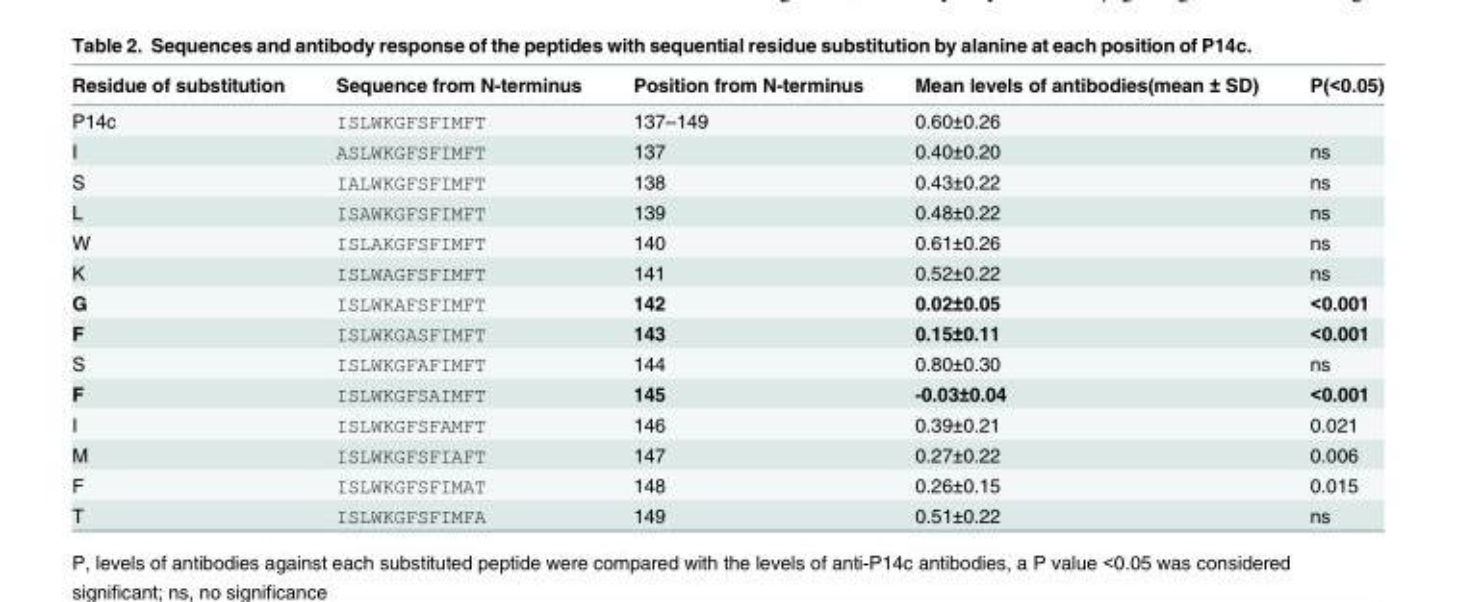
<table><thead><tr><td>Residue of substitution</td><td>Sequence from N-terminus</td><td>Position from N-terminus</td><td>Mean levels of antibodies(mean ± SD)</td><td>P(&lt;0.05)</td></tr></thead><tbody><tr><td>P14c</td><td>ISLWKGFSFIMFT</td><td>137–149</td><td>0.60±0.26</td><td></td></tr><tr><td>I</td><td>ASLWKGFSFIMFT</td><td>137</td><td>0.40±0.20</td><td>ns</td></tr><tr><td>S</td><td>IALWKGFSFIMFT</td><td>138</td><td>0.43±0.22</td><td>ns</td></tr><tr><td>L</td><td>ISAWKGFSFIMFT</td><td>139</td><td>0.48±0.22</td><td>ns</td></tr><tr><td>W</td><td>ISLAKGFSFIMFT</td><td>140</td><td>0.61±0.26</td><td>ns</td></tr><tr><td>K</td><td>ISLWAGFSFIMFT</td><td>141</td><td>0.52±0.22</td><td>ns</td></tr><tr><td>G</td><td>ISLWKAFSFIMFT</td><td>142</td><td>0.02±0.05</td><td>&lt;0.001</td></tr><tr><td>F</td><td>ISLWKGASFIMFT</td><td>143</td><td>0.15±0.11</td><td>&lt;0.001</td></tr><tr><td>S</td><td>ISLWKGFAFIMFT</td><td>144</td><td>0.80±0.30</td><td>ns</td></tr><tr><td>F</td><td>ISLWKGFSAIMFT</td><td>145</td><td>-0.03±0.04</td><td>&lt;0.001</td></tr><tr><td>I</td><td>ISLWKGFSFAMFT</td><td>146</td><td>0.39±0.21</td><td>0.021</td></tr><tr><td>M</td><td>ISLWKGFSFIAFT</td><td>147</td><td>0.27±0.22</td><td>0.006</td></tr><tr><td>F</td><td>ISLWKGFSFIMAT</td><td>148</td><td>0.26±0.15</td><td>0.015</td></tr><tr><td>T</td><td>ISLWKGFSFIMFA</td><td>149</td><td>0.51±0.22</td><td>ns</td></tr></tbody></table>